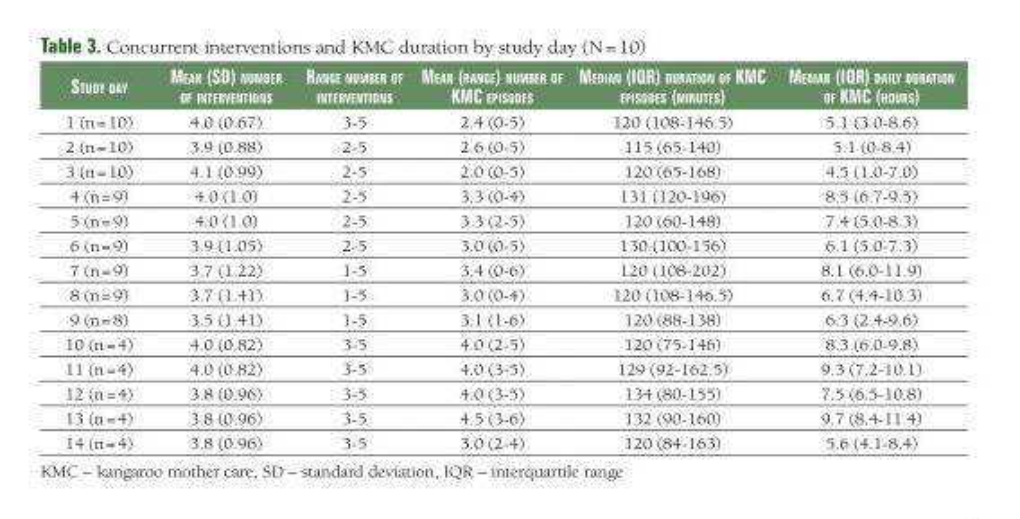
<table><thead><tr><td>study day</td><td>meaN (sd) Number of iNterveNtioNs</td><td>raNge Number of iNterveNtioNs</td><td>meaN (raNge) Number of Kmc episodes</td><td>mediaN (iqr) duratioN of Kmc episodes (miNutes)</td><td>mediaN (iqr) daily duratioN of Kmc (hours)</td></tr></thead><tbody><tr><td>1 (n = 10)</td><td>4.0 (0.67)</td><td>3-5</td><td>2.4 (0-5)</td><td>120 (108-146.5)</td><td>5.1 (3.0-8.6)</td></tr><tr><td>2 (n = 10)</td><td>3.9 (0.88)</td><td>2-5</td><td>2.6 (0-5)</td><td>115 (65-140)</td><td>5.1 (0-8.4)</td></tr><tr><td>3 (n = 10)</td><td>4.1 (0.99)</td><td>2-5</td><td>2.0 (0-5)</td><td>120 (65-168)</td><td>4.5 (1.0-7.0)</td></tr><tr><td>4 (n = 9)</td><td>4.0 (1.0)</td><td>2-5</td><td>3.3 (0-4)</td><td>131 (120-196)</td><td>8.5 (6.7-9.5)</td></tr><tr><td>5 (n = 9)</td><td>4.0 (1.0)</td><td>2-5</td><td>3.3 (2-5)</td><td>120 (60-148)</td><td>7.4 (5.0-8.3)</td></tr><tr><td>6 (n = 9)</td><td>3.9 (1.05)</td><td>2-5</td><td>3.0 (0-5)</td><td>130 (100-156)</td><td>6.1 (5.0-7.3)</td></tr><tr><td>7 (n = 9)</td><td>3.7 (1.22)</td><td>1-5</td><td>3.4 (0-6)</td><td>120 (108-202)</td><td>8.1 (6.0-11.9)</td></tr><tr><td>8 (n = 9)</td><td>3.7 (1.41)</td><td>1-5</td><td>3.0 (0-4)</td><td>120 (108-146.5)</td><td>6.7 (4.4-10.3)</td></tr><tr><td>9 (n = 8)</td><td>3.5 (1.41)</td><td>1-5</td><td>3.1 (1-6)</td><td>120 (88-138)</td><td>6.3 (2.4-9.6)</td></tr><tr><td>10 (n = 4)</td><td>4.0 (0.82)</td><td>3-5</td><td>4.0 (2-5)</td><td>120 (75-146)</td><td>8.3 (6.0-9.8)</td></tr><tr><td>11 (n = 4)</td><td>4.0 (0.82)</td><td>3-5</td><td>4.0 (3-5)</td><td>129 (92-162.5)</td><td>9.3 (7.2-10.1)</td></tr><tr><td>12 (n = 4)</td><td>3.8 (0.96)</td><td>3-5</td><td>4.0 (3-5)</td><td>134 (80-155)</td><td>7.5 (6.5-10.8)</td></tr><tr><td>13 (n = 4)</td><td>3.8 (0.96)</td><td>3-5</td><td>4.5 (3-6)</td><td>132 (90-160)</td><td>9.7 (8.4-11.4)</td></tr><tr><td>14 (n = 4)</td><td>3.8 (0.96)</td><td>3-5</td><td>3.0 (2-4)</td><td>120 (84-163)</td><td>5.6 (4.1-8.4)</td></tr></tbody></table>